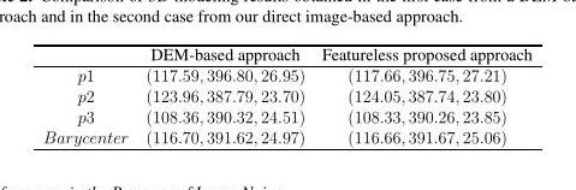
<table><thead><tr><td></td><td>DEM-based approach</td><td>Featureless proposed approach</td></tr></thead><tbody><tr><td>p1</td><td>(117.59, 396.80, 26.95)</td><td>(117.66, 396.75, 27.21)</td></tr><tr><td>p2</td><td>(123.96, 387.79, 23.70)</td><td>(124.05, 387.74, 23.80)</td></tr><tr><td>p3</td><td>(108.36, 390.32, 24.51)</td><td>(108.33, 390.26, 23.85)</td></tr><tr><td>Barycenter</td><td>(116.70, 391.62, 24.97)</td><td>(116.66, 391.67, 25.06)</td></tr></tbody></table>